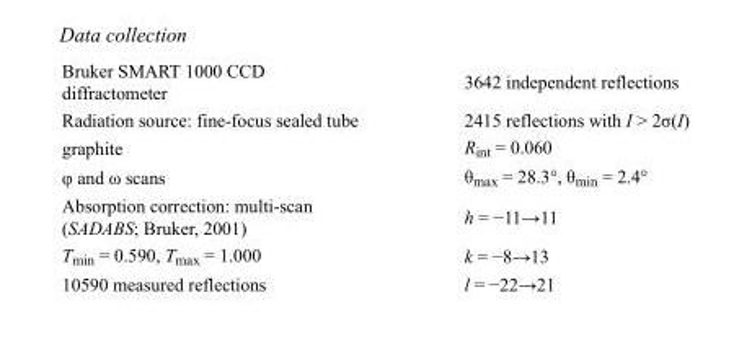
<table><tbody><tr><td>Bruker SMART 1000 CCD diffractometer</td><td>3642 independent reflections</td></tr><tr><td>Radiation source: fine-focus sealed tube</td><td>2415 reflections with I &gt; 2σ(I)</td></tr><tr><td>graphite</td><td>R<sub>int</sub> = 0.060</td></tr><tr><td>φ and ω scans</td><td>θ<sub>max</sub> = 28.3°, θ<sub>min</sub> = 2.4°</td></tr><tr><td>Absorption correction: multi-scan (SADABS; Bruker, 2001)</td><td>h = −11→11</td></tr><tr><td>T<sub>min</sub> = 0.590, T<sub>max</sub> = 1.000</td><td>k = −8→13</td></tr><tr><td>10590 measured reflections</td><td>l = −22→21</td></tr></tbody></table>